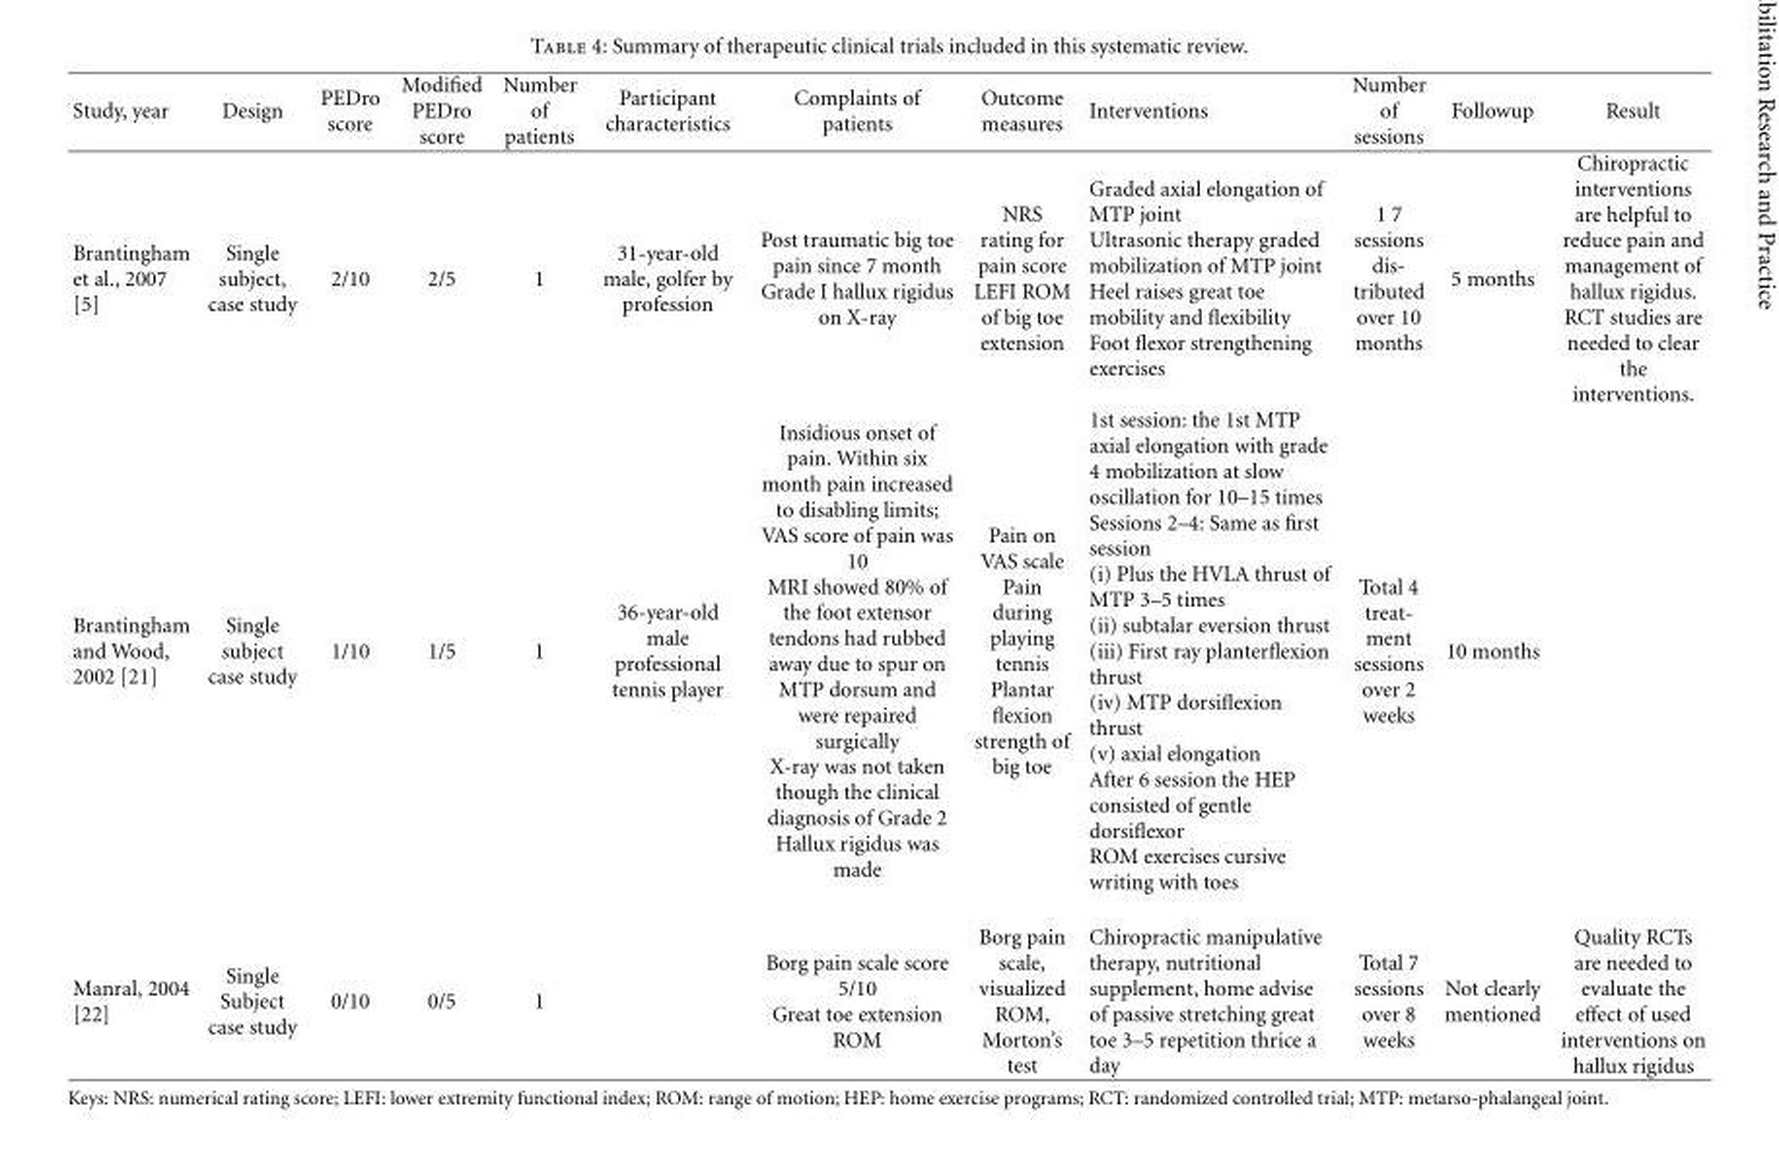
<table><thead><tr><td>Study, year</td><td>Design</td><td>PEDro score</td><td>Modified PEDro score</td><td>Number of patients</td><td>Participant characteristics</td><td>Complaints of patients</td><td>Outcome measures</td><td>Interventions</td><td>Number of sessions</td><td>Followup</td><td>Result</td></tr></thead><tbody><tr><td>Brantingham et al., 2007 [5]</td><td>Single subject, case study</td><td>2/10</td><td>2/5</td><td>1</td><td>31-year-old male, golfer by profession</td><td>Post traumatic big toe pain since 7 month Grade I hallux rigidus on X-ray</td><td>NRS rating for pain score LEFI ROM of big toe extension</td><td>Graded axial elongation of MTP joint Ultrasonic therapy graded mobilization of MTP joint Heel raises great toe mobility and flexibility Foot flexor strengthening exercises</td><td>1 7 sessions dis- tributed over 10 months</td><td>5 months</td><td>Chiropractic interventions are helpful to reduce pain and management of hallux rigidus. RCT studies are needed to clear the interventions.</td></tr><tr><td>Brantingham and Wood, 2002 [21]</td><td>Single subject case study</td><td>1/10</td><td>1/5</td><td>1</td><td>36-year-old male professional tennis player</td><td>Insidious onset of pain. Within six month pain increased to disabling limits; VAS score of pain was 10 MRI showed 80% of the foot extensor tendons had rubbed away due to spur on MTP dorsum and were repaired surgically X-ray was not taken though the clinical diagnosis of Grade 2 Hallux rigidus was made</td><td>Pain on VAS scale Pain during playing tennis Plantar flexion strength of big toe</td><td>1st session: the 1st MTP axial elongation with grade 4 mobilization at slow oscillation for 10–15 times Sessions 2–4: Same as first session (i) Plus the HVLA thrust of MTP 3–5 times (ii) subtalar eversion thrust (iii) First ray planterflexion thrust (iv) MTP dorsiflexion thrust (v) axial elongation After 6 session the HEP consisted of gentle dorsiflexor ROM exercises cursive writing with toes</td><td>Total 4 treat- ment sessions over 2 weeks</td><td>10 months</td><td></td></tr><tr><td>Manral, 2004 [22]</td><td>Single Subject case study</td><td>0/10</td><td>0/5</td><td>1</td><td></td><td>Borg pain scale score 5/10 Great toe extension ROM</td><td>Borg pain scale, visualized ROM, Morton’s test</td><td>Chiropractic manipulative therapy, nutritional supplement, home advise of passive stretching great toe 3–5 repetition thrice a day</td><td>Total 7 sessions over 8 weeks</td><td>Not clearly mentioned</td><td>Quality RCTs are needed to evaluate the effect of used interventions on hallux rigidus</td></tr></tbody></table>